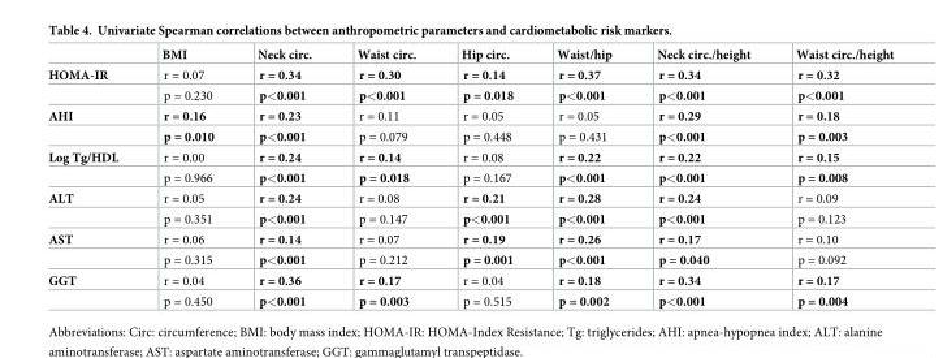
<table><thead><tr><td></td><td>BMI</td><td>Neck circ.</td><td>Waist circ.</td><td>Hip circ.</td><td>Waist/hip</td><td>Neck circ./height</td><td>Waist circ./height</td></tr></thead><tbody><tr><td rowspan="2">HOMA-IR</td><td>r = 0.07</td><td>r = 0.34</td><td>r = 0.30</td><td>r = 0.14</td><td>r = 0.37</td><td>r = 0.34</td><td>r = 0.32</td></tr><tr><td>p = 0.230</td><td>p&lt;0.001</td><td>p&lt;0.001</td><td>p = 0.018</td><td>p&lt;0.001</td><td>p&lt;0.001</td><td>p&lt;0.001</td></tr><tr><td rowspan="2">AHI</td><td>r = 0.16</td><td>r = 0.23</td><td>r = 0.11</td><td>r = 0.05</td><td>r = 0.05</td><td>r = 0.29</td><td>r = 0.18</td></tr><tr><td>p = 0.010</td><td>p&lt;0.001</td><td>p = 0.079</td><td>p = 0.448</td><td>p = 0.431</td><td>p&lt;0.001</td><td>p = 0.003</td></tr><tr><td rowspan="2">Log Tg/HDL</td><td>r = 0.00</td><td>r = 0.24</td><td>r = 0.14</td><td>r = 0.08</td><td>r = 0.22</td><td>r = 0.22</td><td>r = 0.15</td></tr><tr><td>p = 0.966</td><td>p&lt;0.001</td><td>p = 0.018</td><td>p = 0.167</td><td>p&lt;0.001</td><td>p&lt;0.001</td><td>p = 0.008</td></tr><tr><td rowspan="2">ALT</td><td>r = 0.05</td><td>r = 0.24</td><td>r = 0.08</td><td>r = 0.21</td><td>r = 0.28</td><td>r = 0.24</td><td>r = 0.09</td></tr><tr><td>p = 0.351</td><td>p&lt;0.001</td><td>p = 0.147</td><td>p&lt;0.001</td><td>p&lt;0.001</td><td>p&lt;0.001</td><td>p = 0.123</td></tr><tr><td rowspan="2">AST</td><td>r = 0.06</td><td>r = 0.14</td><td>r = 0.07</td><td>r = 0.19</td><td>r = 0.26</td><td>r = 0.17</td><td>r = 0.10</td></tr><tr><td>p = 0.315</td><td>p&lt;0.001</td><td>p = 0.212</td><td>p = 0.001</td><td>p&lt;0.001</td><td>p = 0.040</td><td>p = 0.092</td></tr><tr><td rowspan="2">GGT</td><td>r = 0.04</td><td>r = 0.36</td><td>r = 0.17</td><td>r = 0.04</td><td>r = 0.18</td><td>r = 0.34</td><td>r = 0.17</td></tr><tr><td>p = 0.450</td><td>p&lt;0.001</td><td>p = 0.003</td><td>p = 0.515</td><td>p = 0.002</td><td>p&lt;0.001</td><td>p = 0.004</td></tr></tbody></table>